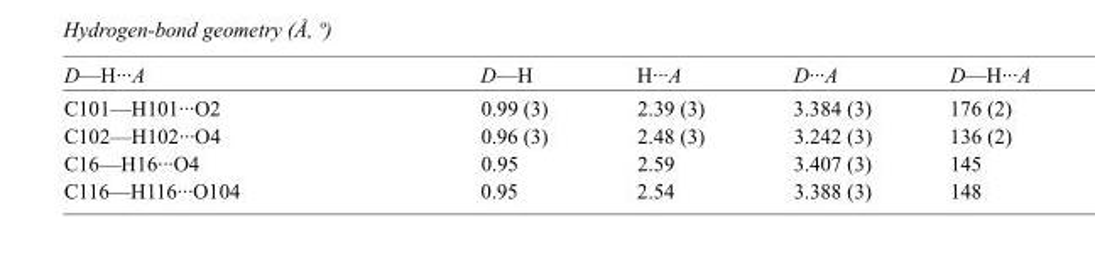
<table><tbody><tr><td>D—H···A</td><td>D—H</td><td>H···A</td><td>D···A</td><td>D—H···A</td></tr><tr><td>C101—H101···O2</td><td>0.99 (3)</td><td>2.39 (3)</td><td>3.384 (3)</td><td>176 (2)</td></tr><tr><td>C102—H102···O4</td><td>0.96 (3)</td><td>2.48 (3)</td><td>3.242 (3)</td><td>136 (2)</td></tr><tr><td>C16—H16···O4</td><td>0.95</td><td>2.59</td><td>3.407 (3)</td><td>145</td></tr><tr><td>C116—H116···O104</td><td>0.95</td><td>2.54</td><td>3.388 (3)</td><td>148</td></tr></tbody></table>